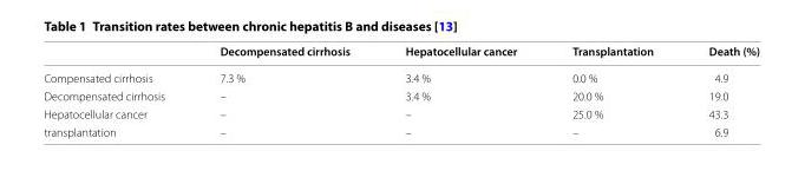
<table><thead><tr><td></td><td>Decompensated cirrhosis</td><td>Hepatocellular cancer</td><td>Transplantation</td><td>Death (%)</td></tr></thead><tbody><tr><td>Compensated cirrhosis</td><td>7.3 %</td><td>3.4 %</td><td>0.0 %</td><td>4.9</td></tr><tr><td>Decompensated cirrhosis</td><td>–</td><td>3.4 %</td><td>20.0 %</td><td>19.0</td></tr><tr><td>Hepatocellular cancer</td><td>–</td><td>–</td><td>25.0 %</td><td>43.3</td></tr><tr><td>transplantation</td><td>–</td><td>–</td><td>–</td><td>6.9</td></tr></tbody></table>